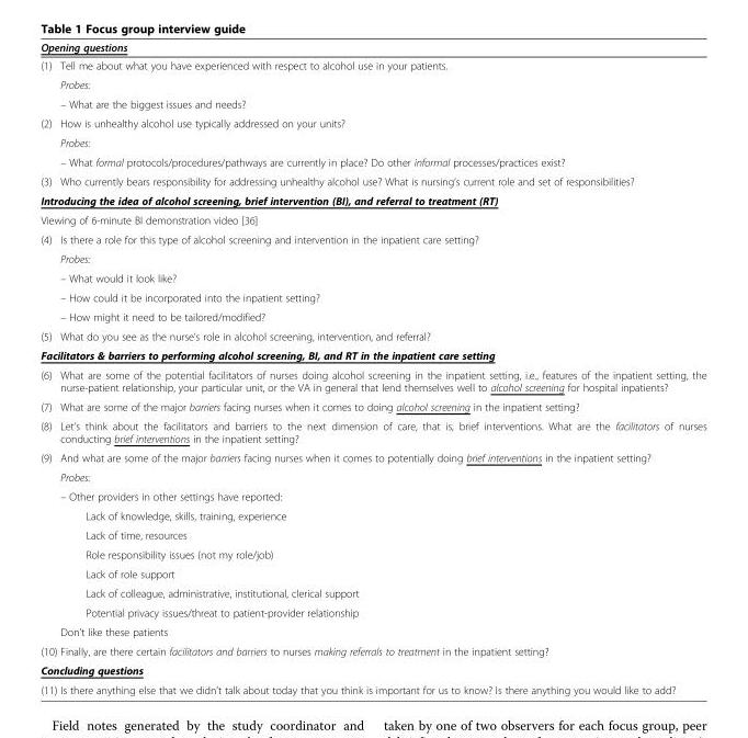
<table><thead><tr><td colspan="2">Opening questions</td></tr><tr><td>(1)</td><td>Tell me about what you have experienced with respect to alcohol use in your patients.</td></tr></thead><tbody><tr><td rowspan="2"></td><td>Probes:</td></tr><tr><td>– What are the biggest issues and needs?</td></tr><tr><td rowspan="3">(2)</td><td>How is unhealthy alcohol use typically addressed on your units?</td></tr><tr><td>Probes:</td></tr><tr><td>– What formal protocols/procedures/pathways are currently in place? Do other informal processes/practices exist?</td></tr><tr><td>(3)</td><td>Who currently bears responsibility for addressing unhealthy alcohol use? What is nursing’s current role and set of responsibilities?</td></tr><tr><td colspan="2">Introducing the idea of alcohol screening, brief intervention (BI), and referral to treatment (RT)</td></tr><tr><td colspan="2">Viewing of 6-minute BI demonstration video [36]</td></tr><tr><td rowspan="5">(4)</td><td>Is there a role for this type of alcohol screening and intervention in the inpatient care setting?</td></tr><tr><td>Probes:</td></tr><tr><td>– What would it look like?</td></tr><tr><td>– How could it be incorporated into the inpatient setting?</td></tr><tr><td>– How might it need to be tailored/modified?</td></tr><tr><td>(5)</td><td>What do you see as the nurse’s role in alcohol screening, intervention, and referral?</td></tr><tr><td colspan="2">Facilitators &amp; barriers to performing alcohol screening, BI, and RT in the inpatient care setting</td></tr><tr><td>(6)</td><td>What are some of the potential facilitators of nurses doing alcohol screening in the inpatient setting, i.e., features of the inpatient setting, the nurse-patient relationship, your particular unit, or the VA in general that lend themselves well to alcohol screening for hospital inpatients?</td></tr><tr><td>(7)</td><td>What are some of the major barriers facing nurses when it comes to doing alcohol screening in the inpatient setting?</td></tr><tr><td>(8)</td><td>Let’s think about the facilitators and barriers to the next dimension of care, that is, brief interventions. What are the facilitators of nurses conducting brief interventions in the inpatient setting?</td></tr><tr><td rowspan="10">(9)</td><td>And what are some of the major barriers facing nurses when it comes to potentially doing brief interventions in the inpatient setting?</td></tr><tr><td>Probes:</td></tr><tr><td>– Other providers in other settings have reported:</td></tr><tr><td>Lack of knowledge, skills, training, experience</td></tr><tr><td>Lack of time, resources</td></tr><tr><td>Role responsibility issues (not my role/job)</td></tr><tr><td>Lack of role support</td></tr><tr><td>Lack of colleague, administrative, institutional, clerical support</td></tr><tr><td>Potential privacy issues/threat to patient-provider relationship</td></tr><tr><td>Don’t like these patients</td></tr><tr><td>(10)</td><td>Finally, are there certain facilitators and barriers to nurses making referrals to treatment in the inpatient setting?</td></tr><tr><td colspan="2">Concluding questions</td></tr><tr><td>(11)</td><td>Is there anything else that we didn’t talk about today that you think is important for us to know? Is there anything you would like to add?</td></tr></tbody></table>